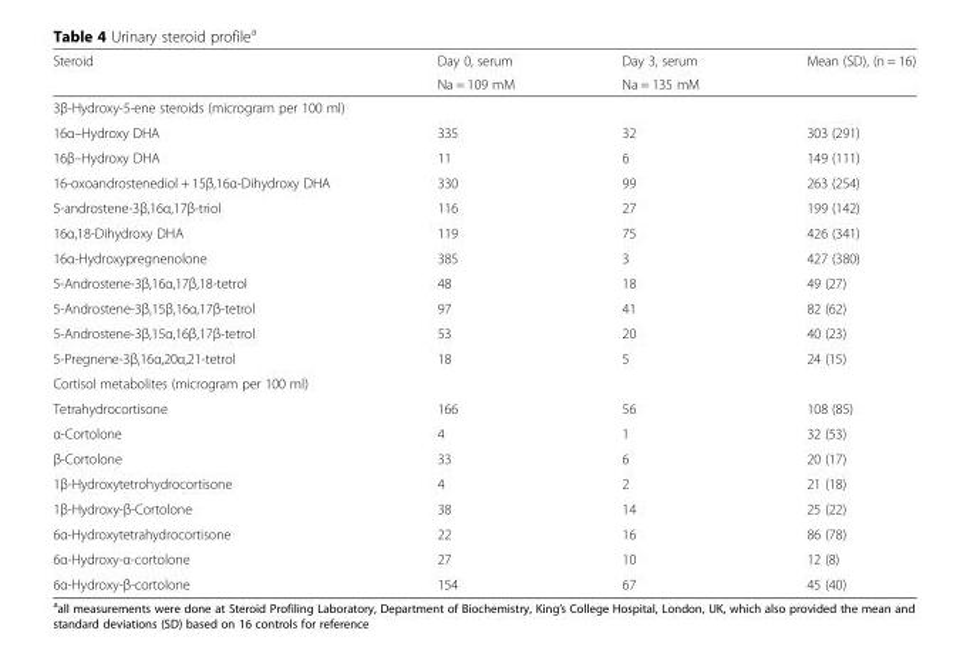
<table><thead><tr><td rowspan="2">Steroid</td><td rowspan="2">Day 0, serum Na = 109 mM</td><td rowspan="2">Day 3, serum Na = 135 mM</td><td rowspan="2">Mean (SD), (n = 16)</td></tr><tr></tr></thead><tbody><tr><td colspan="4">3β-Hydroxy-5-ene steroids (microgram per 100 ml)</td></tr><tr><td>16α–Hydroxy DHA</td><td>335</td><td>32</td><td>303 (291)</td></tr><tr><td>16β–Hydroxy DHA</td><td>11</td><td>6</td><td>149 (111)</td></tr><tr><td>16-oxoandrostenediol + 15β,16α-Dihydroxy DHA</td><td>330</td><td>99</td><td>263 (254)</td></tr><tr><td>5-androstene-3β,16α,17β-triol</td><td>116</td><td>27</td><td>199 (142)</td></tr><tr><td>16α,18-Dihydroxy DHA</td><td>119</td><td>75</td><td>426 (341)</td></tr><tr><td>16α-Hydroxypregnenolone</td><td>385</td><td>3</td><td>427 (380)</td></tr><tr><td>5-Androstene-3β,16α,17β,18-tetrol</td><td>48</td><td>18</td><td>49 (27)</td></tr><tr><td>5-Androstene-3β,15β,16α,17β-tetrol</td><td>97</td><td>41</td><td>82 (62)</td></tr><tr><td>5-Androstene-3β,15α,16β,17β-tetrol</td><td>53</td><td>20</td><td>40 (23)</td></tr><tr><td>5-Pregnene-3β,16α,20α,21-tetrol</td><td>18</td><td>5</td><td>24 (15)</td></tr><tr><td colspan="4">Cortisol metabolites (microgram per 100 ml)</td></tr><tr><td>Tetrahydrocortisone</td><td>166</td><td>56</td><td>108 (85)</td></tr><tr><td>α-Cortolone</td><td>4</td><td>1</td><td>32 (53)</td></tr><tr><td>β-Cortolone</td><td>33</td><td>6</td><td>20 (17)</td></tr><tr><td>1β-Hydroxytetrohydrocortisone</td><td>4</td><td>2</td><td>21 (18)</td></tr><tr><td>1β-Hydroxy-β-Cortolone</td><td>38</td><td>14</td><td>25 (22)</td></tr><tr><td>6α-Hydroxytetrahydrocortisone</td><td>22</td><td>16</td><td>86 (78)</td></tr><tr><td>6α-Hydroxy-α-cortolone</td><td>27</td><td>10</td><td>12 (8)</td></tr><tr><td>6α-Hydroxy-β-cortolone</td><td>154</td><td>67</td><td>45 (40)</td></tr></tbody></table>